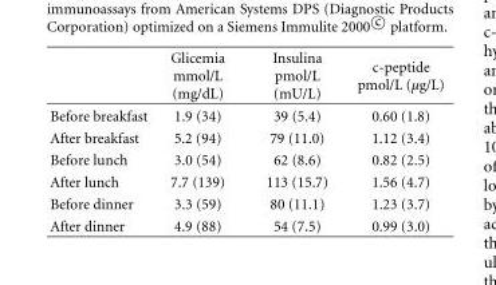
<table><thead><tr><td></td><td>Glicemia mmol/L (mg/dL)</td><td>Insulina pmol/L (mU/L)</td><td>c-peptide pmol/L (µg/L)</td></tr></thead><tbody><tr><td>Before breakfast</td><td>1.9 (34)</td><td>39 (5.4)</td><td>0.60 (1.8)</td></tr><tr><td>After breakfast</td><td>5.2 (94)</td><td>79 (11.0)</td><td>1.12 (3.4)</td></tr><tr><td>Before lunch</td><td>3.0 (54)</td><td>62 (8.6)</td><td>0.82 (2.5)</td></tr><tr><td>After lunch</td><td>7.7 (139)</td><td>113 (15.7)</td><td>1.56 (4.7)</td></tr><tr><td>Before dinner</td><td>3.3 (59)</td><td>80 (11.1)</td><td>1.23 (3.7)</td></tr><tr><td>After dinner</td><td>4.9 (88)</td><td>54 (7.5)</td><td>0.99 (3.0)</td></tr></tbody></table>